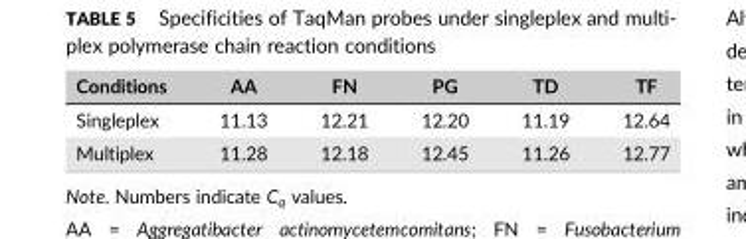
<table><thead><tr><td>Conditions</td><td>AA</td><td>FN</td><td>PG</td><td>TD</td><td>TF</td></tr></thead><tbody><tr><td>Singleplex</td><td>11.13</td><td>12.21</td><td>12.20</td><td>11.19</td><td>12.64</td></tr><tr><td>Multiplex</td><td>11.28</td><td>12.18</td><td>12.45</td><td>11.26</td><td>12.77</td></tr></tbody></table>